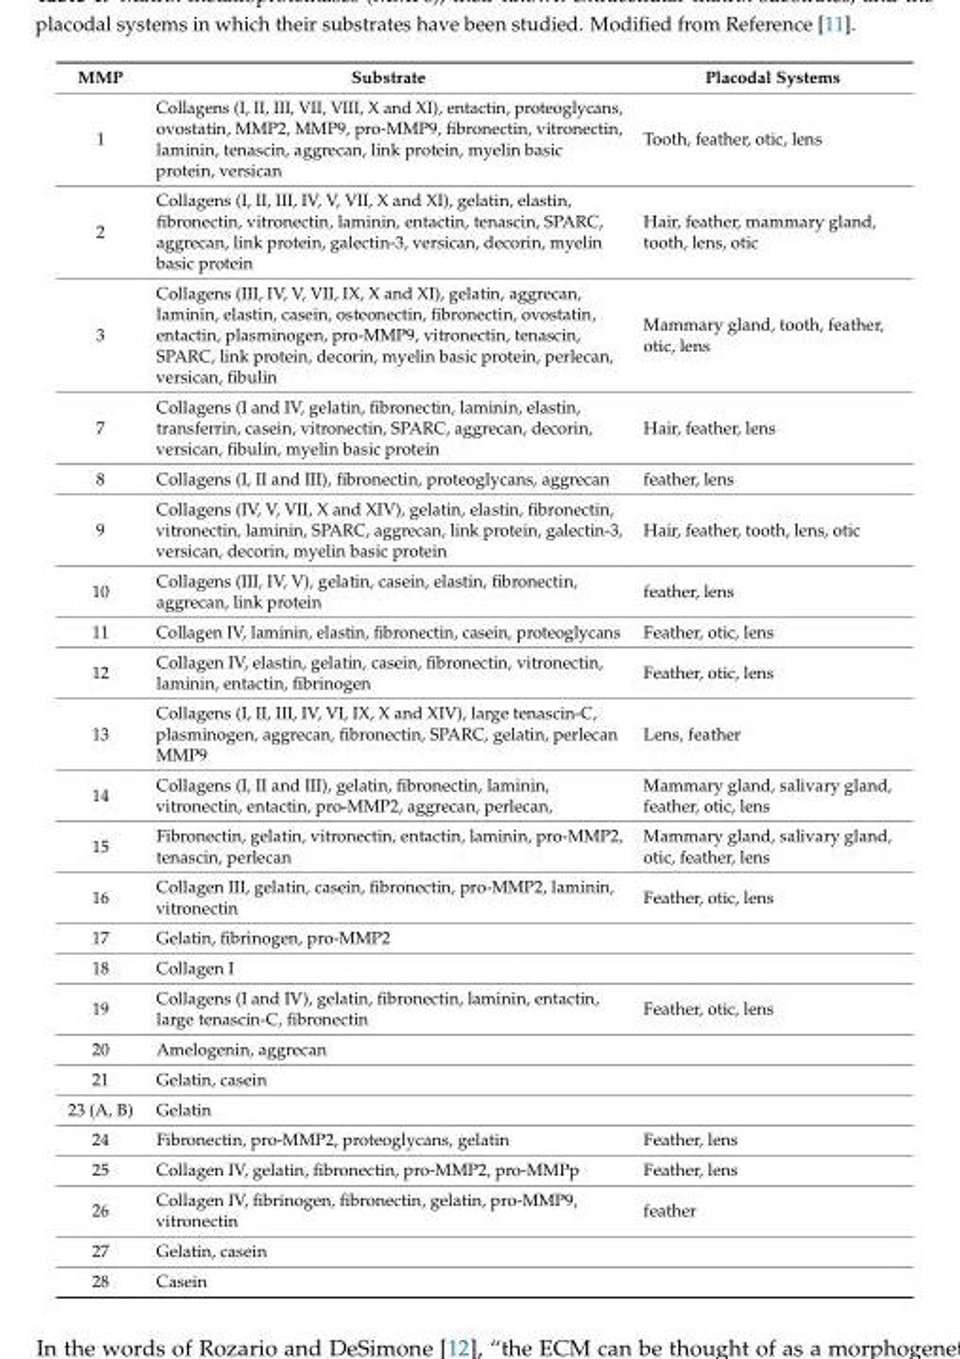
<table><thead><tr><td>MMP</td><td>Substrate</td><td>Placodal Systems</td></tr></thead><tbody><tr><td>1</td><td>Collagens (I, II, III, VII, VIII, X and XI), entactin, proteoglycans, ovostatin, MMP2, MMP9, pro-MMP9, fibronectin, vitronectin, laminin, tenascin, aggrecan, link protein, myelin basic protein, versican</td><td>Tooth, feather, otic, lens</td></tr><tr><td>2</td><td>Collagens (I, II, III, IV, V, VII, X and XI), gelatin, elastin, fibronectin, vitronectin, laminin, entactin, tenascin, SPARC, aggrecan, link protein, galectin-3, versican, decorin, myelin basic protein</td><td>Hair, feather, mammary gland, tooth, lens, otic</td></tr><tr><td>3</td><td>Collagens (III, IV, V, VII, IX, X and XI), gelatin, aggrecan, laminin, elastin, casein, osteonectin, fibronectin, ovostatin, entactin, plasminogen, pro-MMP9, vitronectin, tenascin, SPARC, link protein, decorin, myelin basic protein, perlecan, versican, fibulin</td><td>Mammary gland, tooth, feather, otic, lens</td></tr><tr><td>7</td><td>Collagens (I and IV, gelatin, fibronectin, laminin, elastin, transferrin, casein, vitronectin, SPARC, aggrecan, decorin, versican, fibulin, myelin basic protein</td><td>Hair, feather, lens</td></tr><tr><td>8</td><td>Collagens (I, II and III), fibronectin, proteoglycans, aggrecan</td><td>feather, lens</td></tr><tr><td>9</td><td>Collagens (IV, V, VII, X and XIV), gelatin, elastin, fibronectin, vitronectin, laminin, SPARC, aggrecan, link protein, galectin-3, versican, decorin, myelin basic protein</td><td>Hair, feather, tooth, lens, otic</td></tr><tr><td>10</td><td>Collagens (III, IV, V), gelatin, casein, elastin, fibronectin, aggrecan, link protein</td><td>feather, lens</td></tr><tr><td>11</td><td>Collagen IV, laminin, elastin, fibronectin, casein, proteoglycans</td><td>Feather, otic, lens</td></tr><tr><td>12</td><td>Collagen IV, elastin, gelatin, casein, fibronectin, vitronectin, laminin, entactin, fibrinogen</td><td>Feather, otic, lens</td></tr><tr><td>13</td><td>Collagens (I, II, III, IV, VI, IX, X and XIV), large tenascin-C, plasminogen, aggrecan, fibronectin, SPARC, gelatin, perlecan MMP9</td><td>Lens, feather</td></tr><tr><td>14</td><td>Collagens (I, II and III), gelatin, fibronectin, laminin, vitronectin, entactin, pro-MMP2, aggrecan, perlecan,</td><td>Mammary gland, salivary gland, feather, otic, lens</td></tr><tr><td>15</td><td>Fibronectin, gelatin, vitronectin, entactin, laminin, pro-MMP2, tenascin, perlecan</td><td>Mammary gland, salivary gland, otic, feather, lens</td></tr><tr><td>16</td><td>Collagen III, gelatin, casein, fibronectin, pro-MMP2, laminin, vitronectin</td><td>Feather, otic, lens</td></tr><tr><td>17</td><td>Gelatin, fibrinogen, pro-MMP2</td><td></td></tr><tr><td>18</td><td>Collagen I</td><td></td></tr><tr><td>19</td><td>Collagens (I and IV), gelatin, fibronectin, laminin, entactin, large tenascin-C, fibronectin</td><td>Feather, otic, lens</td></tr><tr><td>20</td><td>Amelogenin, aggrecan</td><td></td></tr><tr><td>21</td><td>Gelatin, casein</td><td></td></tr><tr><td>23 (A, B)</td><td>Gelatin</td><td></td></tr><tr><td>24</td><td>Fibronectin, pro-MMP2, proteoglycans, gelatin</td><td>Feather, lens</td></tr><tr><td>25</td><td>Collagen IV, gelatin, fibronectin, pro-MMP2, pro-MMPp</td><td>Feather, lens</td></tr><tr><td>26</td><td>Collagen IV, fibrinogen, fibronectin, gelatin, pro-MMP9, vitronectin</td><td>feather</td></tr><tr><td>27</td><td>Gelatin, casein</td><td></td></tr><tr><td>28</td><td>Casein</td><td></td></tr></tbody></table>